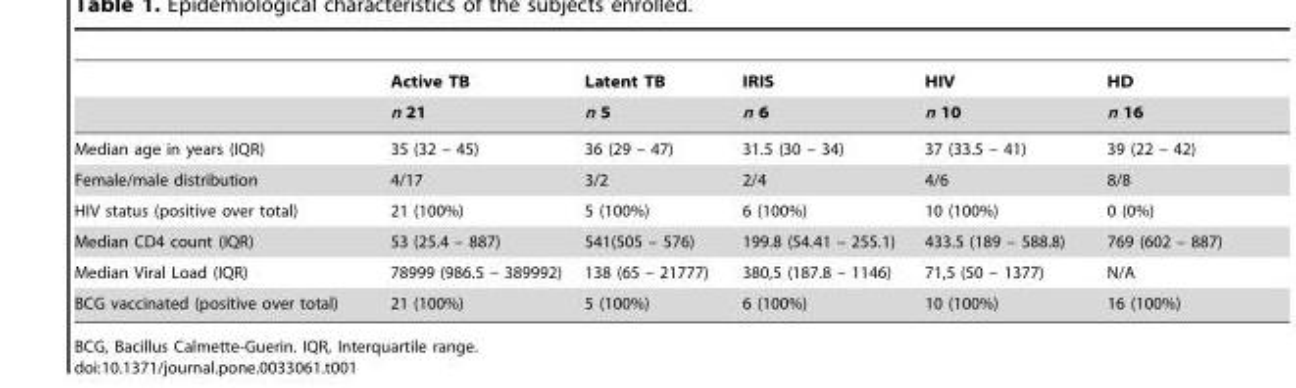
<table><thead><tr><td rowspan="2"></td><td rowspan="2">Active TB n 21</td><td rowspan="2">Latent TB n 5</td><td rowspan="2">IRIS n 6</td><td rowspan="2">HIV n 10</td><td rowspan="2">HD n 16</td></tr><tr></tr></thead><tbody><tr><td>Median age in years (IQR)</td><td>35 (32 – 45)</td><td>36 (29 – 47)</td><td>31.5 (30 – 34)</td><td>37 (33.5 – 41)</td><td>39 (22 – 42)</td></tr><tr><td>Female/male distribution</td><td>4/17</td><td>3/2</td><td>2/4</td><td>4/6</td><td>8/8</td></tr><tr><td>HIV status (positive over total)</td><td>21 (100%)</td><td>5 (100%)</td><td>6 (100%)</td><td>10 (100%)</td><td>0 (0%)</td></tr><tr><td>Median CD4 count (IQR)</td><td>53 (25.4 – 887)</td><td>541(505 – 576)</td><td>199.8 (54.41 – 255.1)</td><td>433.5 (189 – 588.8)</td><td>769 (602 – 887)</td></tr><tr><td>Median Viral Load (IQR)</td><td>78999 (986.5 – 389992)</td><td>138 (65 – 21777)</td><td>380,5 (187.8 – 1146)</td><td>71,5 (50 – 1377)</td><td>N/A</td></tr><tr><td>BCG vaccinated (positive over total)</td><td>21 (100%)</td><td>5 (100%)</td><td>6 (100%)</td><td>10 (100%)</td><td>16 (100%)</td></tr></tbody></table>